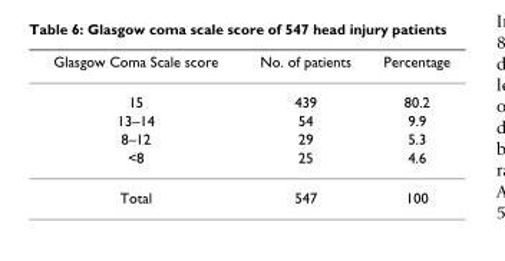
<table><thead><tr><td>Glasgow Coma Scale score</td><td>No. of patients</td><td>Percentage</td></tr></thead><tbody><tr><td>15</td><td>439</td><td>80.2</td></tr><tr><td>13–14</td><td>54</td><td>9.9</td></tr><tr><td>8–12</td><td>29</td><td>5.3</td></tr><tr><td>&lt;8</td><td>25</td><td>4.6</td></tr><tr><td>Total</td><td>547</td><td>100</td></tr></tbody></table>